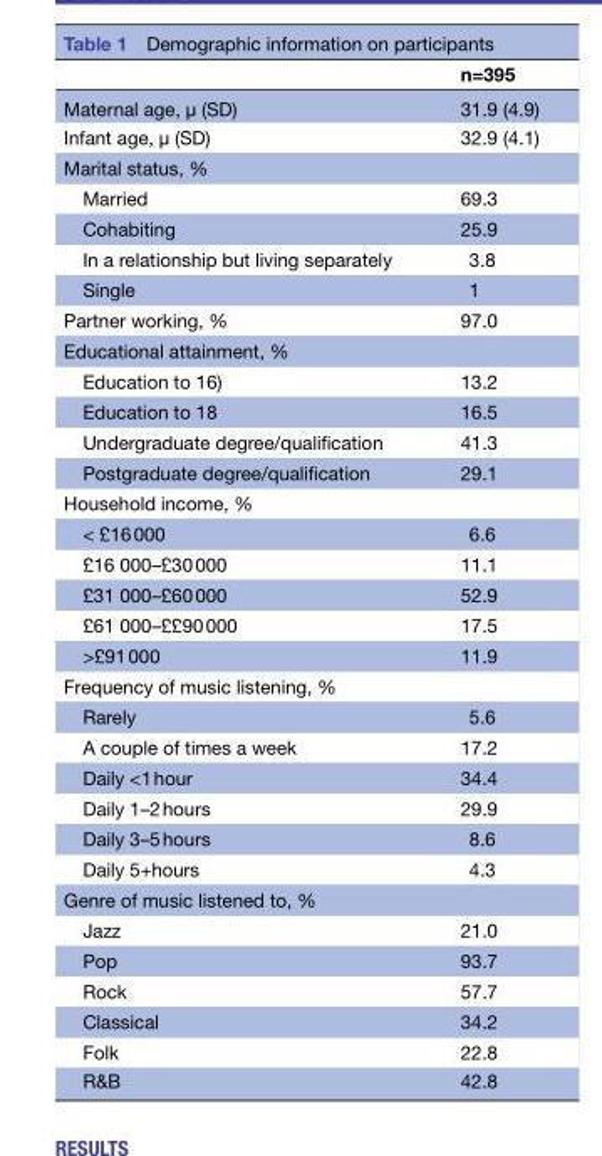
<table><thead><tr><td></td><td>n=395</td></tr></thead><tbody><tr><td>Maternal age, µ (SD)</td><td>31.9 (4.9)</td></tr><tr><td>Infant age, µ (SD)</td><td>32.9 (4.1)</td></tr><tr><td colspan="2">Marital status, %</td></tr><tr><td>Married</td><td>69.3</td></tr><tr><td>Cohabiting</td><td>25.9</td></tr><tr><td>In a relationship but living separately</td><td>3.8</td></tr><tr><td>Single</td><td>1</td></tr><tr><td>Partner working, %</td><td>97.0</td></tr><tr><td colspan="2">Educational attainment, %</td></tr><tr><td>Education to 16)</td><td>13.2</td></tr><tr><td>Education to 18</td><td>16.5</td></tr><tr><td>Undergraduate degree/qualification</td><td>41.3</td></tr><tr><td>Postgraduate degree/qualification</td><td>29.1</td></tr><tr><td colspan="2">Household income, %</td></tr><tr><td>&lt; £16 000</td><td>6.6</td></tr><tr><td>£16 000–£30 000</td><td>11.1</td></tr><tr><td>£31 000–£60 000</td><td>52.9</td></tr><tr><td>£61 000–££90 000</td><td>17.5</td></tr><tr><td>&gt;£91 000</td><td>11.9</td></tr><tr><td colspan="2">Frequency of music listening, %</td></tr><tr><td>Rarely</td><td>5.6</td></tr><tr><td>A couple of times a week</td><td>17.2</td></tr><tr><td>Daily &lt;1 hour</td><td>34.4</td></tr><tr><td>Daily 1–2 hours</td><td>29.9</td></tr><tr><td>Daily 3–5 hours</td><td>8.6</td></tr><tr><td>Daily 5+hours</td><td>4.3</td></tr><tr><td colspan="2">Genre of music listened to, %</td></tr><tr><td>Jazz</td><td>21.0</td></tr><tr><td>Pop</td><td>93.7</td></tr><tr><td>Rock</td><td>57.7</td></tr><tr><td>Classical</td><td>34.2</td></tr><tr><td>Folk</td><td>22.8</td></tr><tr><td>R&amp;B</td><td>42.8</td></tr></tbody></table>